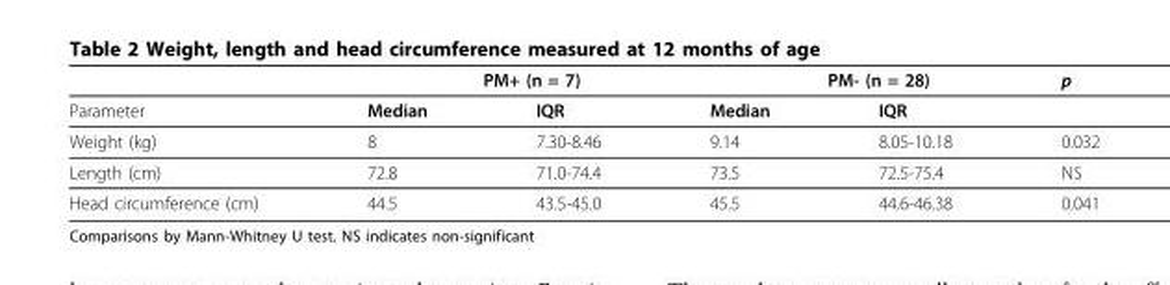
<table><thead><tr><td rowspan="2">Parameter</td><td colspan="2">PM+ (n = 7)</td><td colspan="2">PM- (n = 28)</td><td rowspan="2">p</td></tr><tr><td>Median</td><td>IQR</td><td>Median</td><td>IQR</td></tr></thead><tbody><tr><td>Weight (kg)</td><td>8</td><td>7.30-8.46</td><td>9.14</td><td>8.05-10.18</td><td>0.032</td></tr><tr><td>Length (cm)</td><td>72.8</td><td>71.0-74.4</td><td>73.5</td><td>72.5-75.4</td><td>NS</td></tr><tr><td>Head circumference (cm)</td><td>44.5</td><td>43.5-45.0</td><td>45.5</td><td>44.6-46.38</td><td>0.041</td></tr></tbody></table>